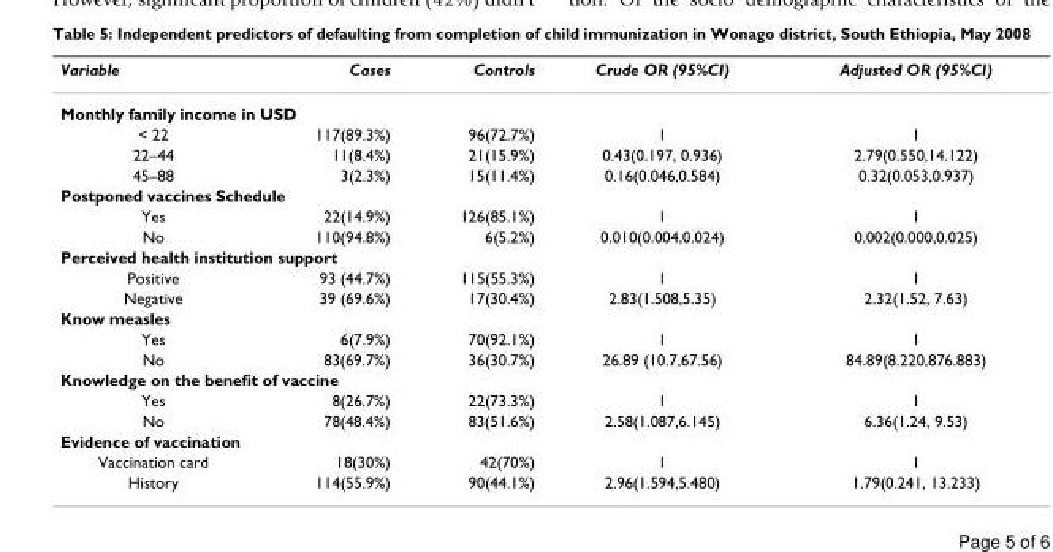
<table><thead><tr><td>Variable</td><td>Cases</td><td>Controls</td><td>Crude OR (95%CI)</td><td>Adjusted OR (95%CI)</td></tr></thead><tbody><tr><td colspan="5">Monthly family income in USD</td></tr><tr><td>&lt; 22</td><td>117(89.3%)</td><td>96(72.7%)</td><td>1</td><td>1</td></tr><tr><td>22–44</td><td>11(8.4%)</td><td>21(15.9%)</td><td>0.43(0.197, 0.936)</td><td>2.79(0.550,14.122)</td></tr><tr><td>45–88</td><td>3(2.3%)</td><td>15(11.4%)</td><td>0.16(0.046,0.584)</td><td>0.32(0.053,0.937)</td></tr><tr><td colspan="5">Postponed vaccines Schedule</td></tr><tr><td>Yes</td><td>22(14.9%)</td><td>126(85.1%)</td><td>1</td><td>1</td></tr><tr><td>No</td><td>110(94.8%)</td><td>6(5.2%)</td><td>0.010(0.004,0.024)</td><td>0.002(0.000,0.025)</td></tr><tr><td colspan="5">Perceived health institution support</td></tr><tr><td>Positive</td><td>93 (44.7%)</td><td>115(55.3%)</td><td>1</td><td>1</td></tr><tr><td>Negative</td><td>39 (69.6%)</td><td>17(30.4%)</td><td>2.83(1.508,5.35)</td><td>2.32(1.52, 7.63)</td></tr><tr><td colspan="5">Know measles</td></tr><tr><td>Yes</td><td>6(7.9%)</td><td>70(92.1%)</td><td>1</td><td>1</td></tr><tr><td>No</td><td>83(69.7%)</td><td>36(30.7%)</td><td>26.89 (10.7,67.56)</td><td>84.89(8.220,876.883)</td></tr><tr><td colspan="5">Knowledge on the benefit of vaccine</td></tr><tr><td>Yes</td><td>8(26.7%)</td><td>22(73.3%)</td><td>1</td><td>1</td></tr><tr><td>No</td><td>78(48.4%)</td><td>83(51.6%)</td><td>2.58(1.087,6.145)</td><td>6.36(1.24, 9.53)</td></tr><tr><td colspan="5">Evidence of vaccination</td></tr><tr><td>Vaccination card</td><td>18(30%)</td><td>42(70%)</td><td>1</td><td>1</td></tr><tr><td>History</td><td>114(55.9%)</td><td>90(44.1%)</td><td>2.96(1.594,5.480)</td><td>1.79(0.241, 13.233)</td></tr></tbody></table>